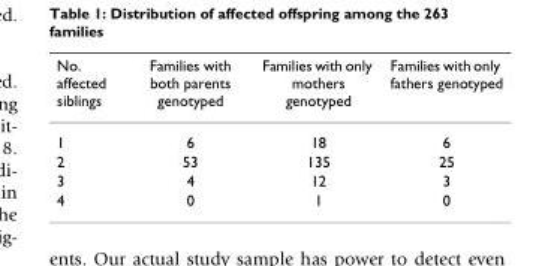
<table><thead><tr><td>No. affected siblings</td><td>Families with both parents genotyped</td><td>Families with only mothers genotyped</td><td>Families with only fathers genotyped</td></tr></thead><tbody><tr><td>1</td><td>6</td><td>18</td><td>6</td></tr><tr><td>2</td><td>53</td><td>135</td><td>25</td></tr><tr><td>3</td><td>4</td><td>12</td><td>3</td></tr><tr><td>4</td><td>0</td><td>1</td><td>0</td></tr></tbody></table>